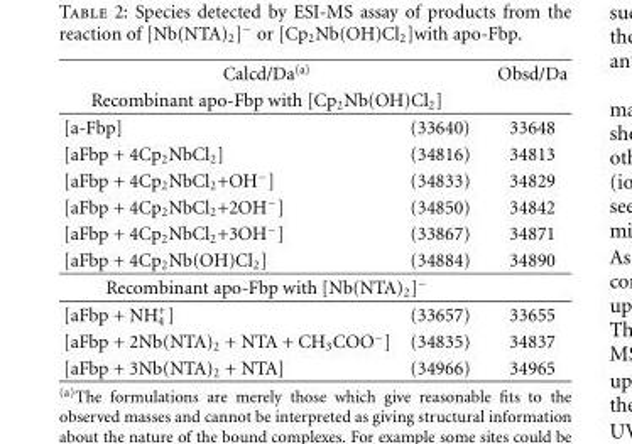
<table><thead><tr><td rowspan="2" colspan="2">Calcd/Da<sup>(a)</sup> Recombinant apo-Fbp with [Cp<sub>2</sub>Nb(OH)Cl<sub>2</sub>]</td><td rowspan="3">Obsd/Da 33648</td></tr><tr></tr><tr><td>[a-Fbp]</td><td>(33640)</td></tr></thead><tbody><tr><td>[aFbp + 4Cp<sub>2</sub>NbCl<sub>2</sub>]</td><td>(34816)</td><td>34813</td></tr><tr><td>[aFbp + 4Cp<sub>2</sub>NbCl<sub>2</sub>+OH<sup>−</sup>]</td><td>(34833)</td><td>34829</td></tr><tr><td>[aFbp + 4Cp<sub>2</sub>NbCl<sub>2</sub>+2OH<sup>−</sup>]</td><td>(34850)</td><td>34842</td></tr><tr><td>[aFbp + 4Cp<sub>2</sub>NbCl<sub>2</sub>+3OH<sup>−</sup>]</td><td>(33867)</td><td>34871</td></tr><tr><td>[aFbp + 4Cp<sub>2</sub>Nb(OH)Cl<sub>2</sub>]</td><td>(34884)</td><td>34890</td></tr><tr><td colspan="3">Recombinant apo-Fbp with [Nb(NTA)<sub>2</sub>]<sup>−</sup></td></tr><tr><td>[aFbp + NH+ 4]</td><td>(33657)</td><td>33655</td></tr><tr><td>[aFbp + 2Nb(NTA)<sub>2</sub> + NTA + CH<sub>3</sub>COO<sup>−</sup>]</td><td>(34835)</td><td>34837</td></tr><tr><td>[aFbp + 3Nb(NTA)<sub>2</sub> + NTA]</td><td>(34966)</td><td>34965</td></tr></tbody></table>